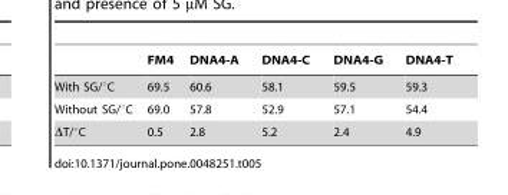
<table><thead><tr><td></td><td>FM4</td><td>DNA4-A</td><td>DNA4-C</td><td>DNA4-G</td><td>DNA4-T</td></tr></thead><tbody><tr><td>With SG/°C</td><td>69.5</td><td>60.6</td><td>58.1</td><td>59.5</td><td>59.3</td></tr><tr><td>Without SG/°C</td><td>69.0</td><td>57.8</td><td>52.9</td><td>57.1</td><td>54.4</td></tr><tr><td>ΔT/°C</td><td>0.5</td><td>2.8</td><td>5.2</td><td>2.4</td><td>4.9</td></tr></tbody></table>